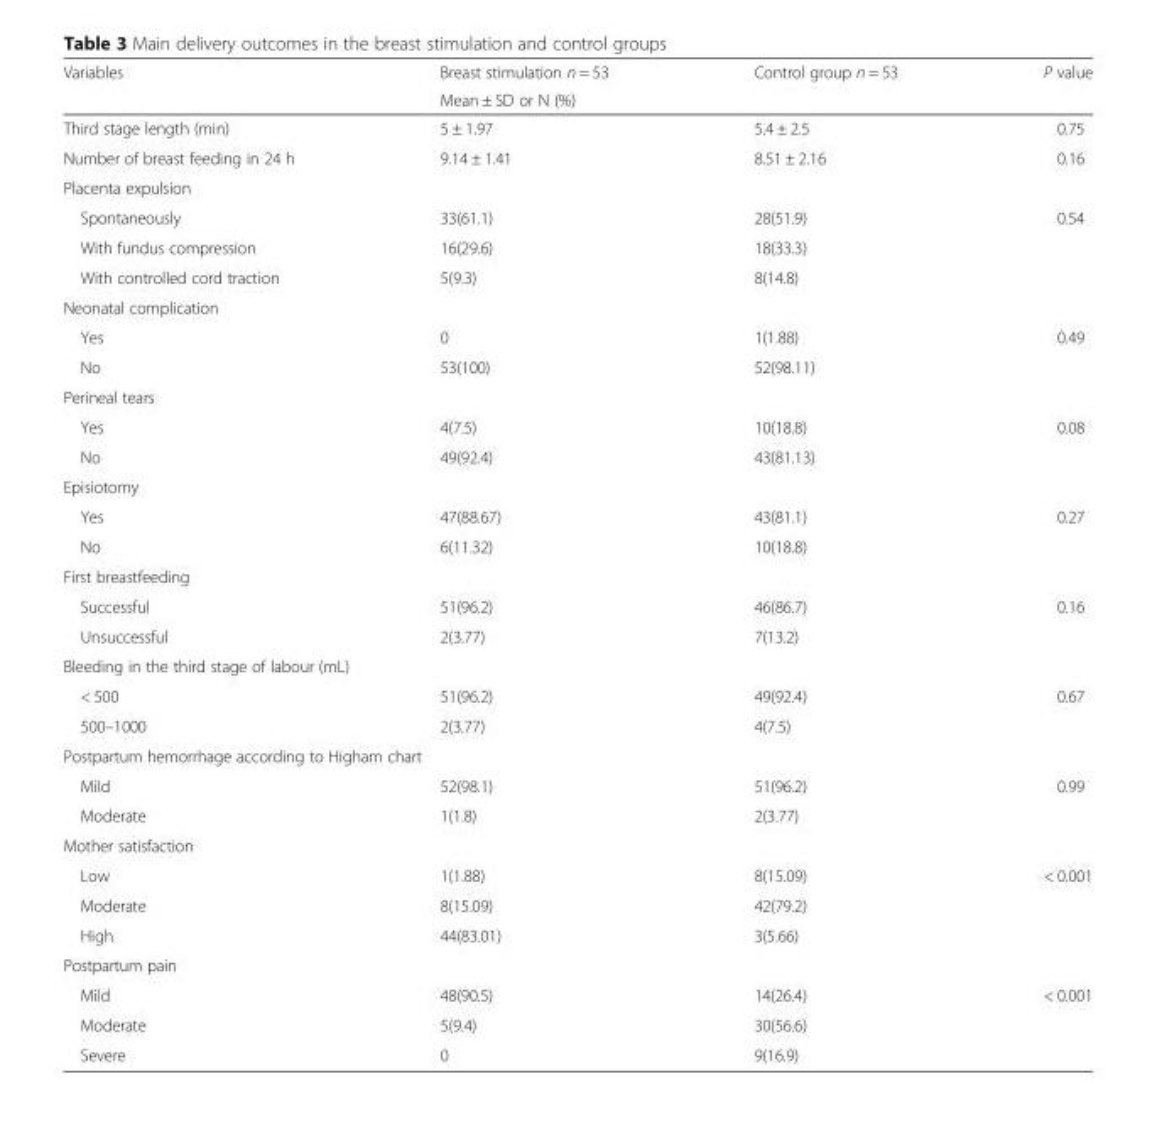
<table><thead><tr><td rowspan="2">Variables</td><td>Breast stimulation n = 53</td><td>Control group n = 53</td><td>P value</td></tr><tr><td colspan="3">Mean ± SD or N (%)</td></tr></thead><tbody><tr><td>Third stage length (min)</td><td>5 ± 1.97</td><td>5.4 ± 2.5</td><td>0.75</td></tr><tr><td>Number of breast feeding in 24 h</td><td>9.14 ± 1.41</td><td>8.51 ± 2.16</td><td>0.16</td></tr><tr><td colspan="4">Placenta expulsion</td></tr><tr><td>Spontaneously</td><td>33(61.1)</td><td>28(51.9)</td><td rowspan="3">0.54</td></tr><tr><td>With fundus compression</td><td>16(29.6)</td><td>18(33.3)</td></tr><tr><td>With controlled cord traction</td><td>5(9.3)</td><td>8(14.8)</td></tr><tr><td colspan="4">Neonatal complication</td></tr><tr><td>Yes</td><td>0</td><td>1(1.88)</td><td rowspan="2">0.49</td></tr><tr><td>No</td><td>53(100)</td><td>52(98.11)</td></tr><tr><td colspan="4">Perineal tears</td></tr><tr><td>Yes</td><td>4(7.5)</td><td>10(18.8)</td><td rowspan="2">0.08</td></tr><tr><td>No</td><td>49(92.4)</td><td>43(81.13)</td></tr><tr><td colspan="4">Episiotomy</td></tr><tr><td>Yes</td><td>47(88.67)</td><td>43(81.1)</td><td rowspan="2">0.27</td></tr><tr><td>No</td><td>6(11.32)</td><td>10(18.8)</td></tr><tr><td colspan="4">First breastfeeding</td></tr><tr><td>Successful</td><td>51(96.2)</td><td>46(86.7)</td><td rowspan="2">0.16</td></tr><tr><td>Unsuccessful</td><td>2(3.77)</td><td>7(13.2)</td></tr><tr><td colspan="4">Bleeding in the third stage of labour (mL)</td></tr><tr><td>&lt; 500</td><td>51(96.2)</td><td>49(92.4)</td><td rowspan="2">0.67</td></tr><tr><td>500–1000</td><td>2(3.77)</td><td>4(7.5)</td></tr><tr><td colspan="4">Postpartum hemorrhage according to Higham chart</td></tr><tr><td>Mild</td><td>52(98.1)</td><td>51(96.2)</td><td rowspan="2">0.99</td></tr><tr><td>Moderate</td><td>1(1.8)</td><td>2(3.77)</td></tr><tr><td colspan="4">Mother satisfaction</td></tr><tr><td>Low</td><td>1(1.88)</td><td>8(15.09)</td><td rowspan="3">&lt; 0.001</td></tr><tr><td>Moderate</td><td>8(15.09)</td><td>42(79.2)</td></tr><tr><td>High</td><td>44(83.01)</td><td>3(5.66)</td></tr><tr><td colspan="4">Postpartum pain</td></tr><tr><td>Mild</td><td>48(90.5)</td><td>14(26.4)</td><td rowspan="3">&lt; 0.001</td></tr><tr><td>Moderate</td><td>5(9.4)</td><td>30(56.6)</td></tr><tr><td>Severe</td><td>0</td><td>9(16.9)</td></tr></tbody></table>